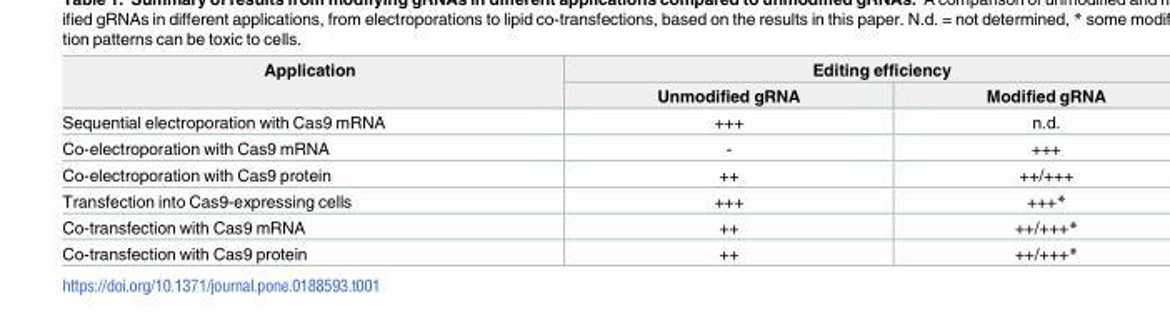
<table><thead><tr><td rowspan="2">Application</td><td colspan="2">Editing efficiency</td></tr><tr><td>Unmodified gRNA</td><td>Modified gRNA</td></tr></thead><tbody><tr><td>Sequential electroporation with Cas9 mRNA</td><td>+++</td><td>n.d.</td></tr><tr><td>Co-electroporation with Cas9 mRNA</td><td>-</td><td>+++</td></tr><tr><td>Co-electroporation with Cas9 protein</td><td>++</td><td>++/+++</td></tr><tr><td>Transfection into Cas9-expressing cells</td><td>+++</td><td>+++*</td></tr><tr><td>Co-transfection with Cas9 mRNA</td><td>++</td><td>++/+++*</td></tr><tr><td>Co-transfection with Cas9 protein</td><td>++</td><td>++/+++*</td></tr></tbody></table>